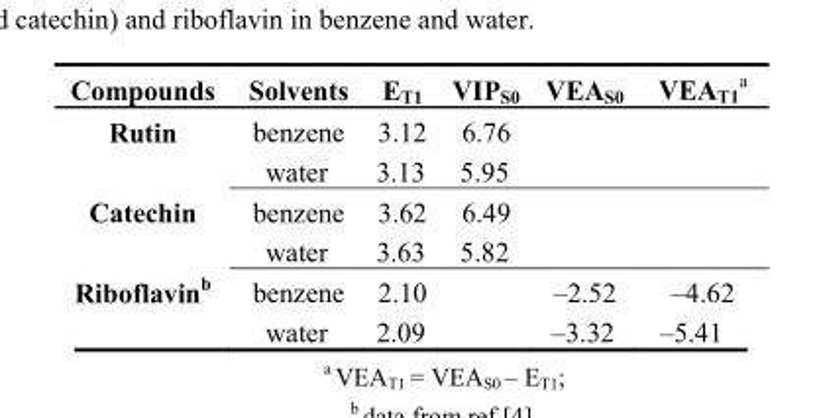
<table><thead><tr><td>Compounds</td><td>Solvents</td><td>E<sub>T1</sub></td><td>VIP<sub>S0</sub></td><td>VEA<sub>S0</sub></td><td>VEA<sub>T1</sub> <sup>a</sup></td></tr></thead><tbody><tr><td rowspan="2">Rutin</td><td>benzene</td><td>3.12</td><td>6.76</td><td></td><td></td></tr><tr><td>water</td><td>3.13</td><td>5.95</td><td></td><td></td></tr><tr><td rowspan="2">Catechin</td><td>benzene</td><td>3.62</td><td>6.49</td><td></td><td></td></tr><tr><td>water</td><td>3.63</td><td>5.82</td><td></td><td></td></tr><tr><td rowspan="2">Riboflavinb</td><td>benzene</td><td>2.10</td><td></td><td>–2.52</td><td>–4.62</td></tr><tr><td>water</td><td>2.09</td><td></td><td>–3.32</td><td>–5.41</td></tr></tbody></table>